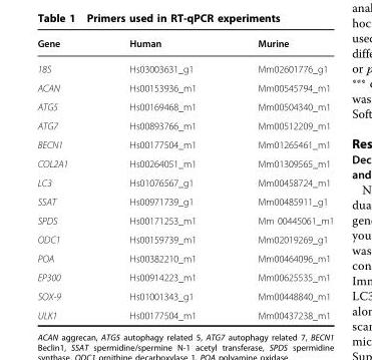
<table><thead><tr><td>Gene</td><td>Human</td><td>Murine</td></tr></thead><tbody><tr><td>18S</td><td>Hs03003631_g1</td><td>Mm02601776_g1</td></tr><tr><td>ACAN</td><td>Hs00153936_m1</td><td>Mm00545794_m1</td></tr><tr><td>ATG5</td><td>Hs00169468_m1</td><td>Mm00504340_m1</td></tr><tr><td>ATG7</td><td>Hs00893766_m1</td><td>Mm00512209_m1</td></tr><tr><td>BECN1</td><td>Hs00177504_m1</td><td>Mm01265461_m1</td></tr><tr><td>COL2A1</td><td>Hs00264051_m1</td><td>Mm01309565_m1</td></tr><tr><td>LC3</td><td>Hs01076567_g1</td><td>Mm00458724_m1</td></tr><tr><td>SSAT</td><td>Hs00971739_g1</td><td>Mm00485911_g1</td></tr><tr><td>SPDS</td><td>Hs00171253_m1</td><td>Mm 00445061_m1</td></tr><tr><td>ODC1</td><td>Hs00159739_m1</td><td>Mm02019269_g1</td></tr><tr><td>POA</td><td>Hs00382210_m1</td><td>Mm00464096_m1</td></tr><tr><td>EP300</td><td>Hs00914223_m1</td><td>Mm00625535_m1</td></tr><tr><td>SOX-9</td><td>Hs01001343_g1</td><td>Mm00448840_m1</td></tr><tr><td>ULK1</td><td>Hs00177504_m1</td><td>Mm00437238_m1</td></tr></tbody></table>